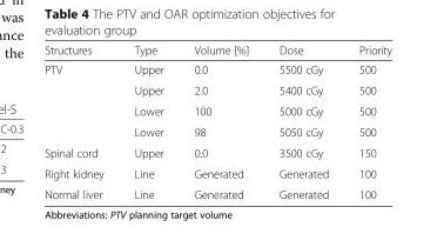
<table><thead><tr><td>Structures</td><td>Type</td><td>Volume [%]</td><td>Dose</td><td>Priority</td></tr></thead><tbody><tr><td rowspan="4">PTV</td><td>Upper</td><td>0.0</td><td>5500 cGy</td><td>500</td></tr><tr><td>Upper</td><td>2.0</td><td>5400 cGy</td><td>500</td></tr><tr><td>Lower</td><td>100</td><td>5000 cGy</td><td>500</td></tr><tr><td>Lower</td><td>98</td><td>5050 cGy</td><td>500</td></tr><tr><td>Spinal cord</td><td>Upper</td><td>0.0</td><td>3500 cGy</td><td>150</td></tr><tr><td>Right kidney</td><td>Line</td><td>Generated</td><td>Generated</td><td>100</td></tr><tr><td>Normal liver</td><td>Line</td><td>Generated</td><td>Generated</td><td>100</td></tr></tbody></table>